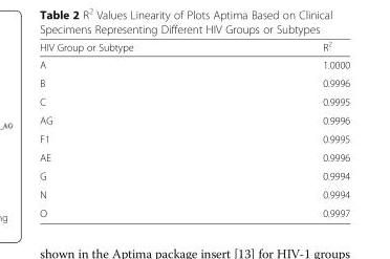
<table><thead><tr><td>HIV Group or Subtype</td><td>R<sup>2</sup></td></tr></thead><tbody><tr><td>A</td><td>1.0000</td></tr><tr><td>B</td><td>0.9996</td></tr><tr><td>C</td><td>0.9995</td></tr><tr><td>AG</td><td>0.9996</td></tr><tr><td>F1</td><td>0.9995</td></tr><tr><td>AE</td><td>0.9996</td></tr><tr><td>G</td><td>0.9994</td></tr><tr><td>N</td><td>0.9994</td></tr><tr><td>O</td><td>0.9997</td></tr></tbody></table>